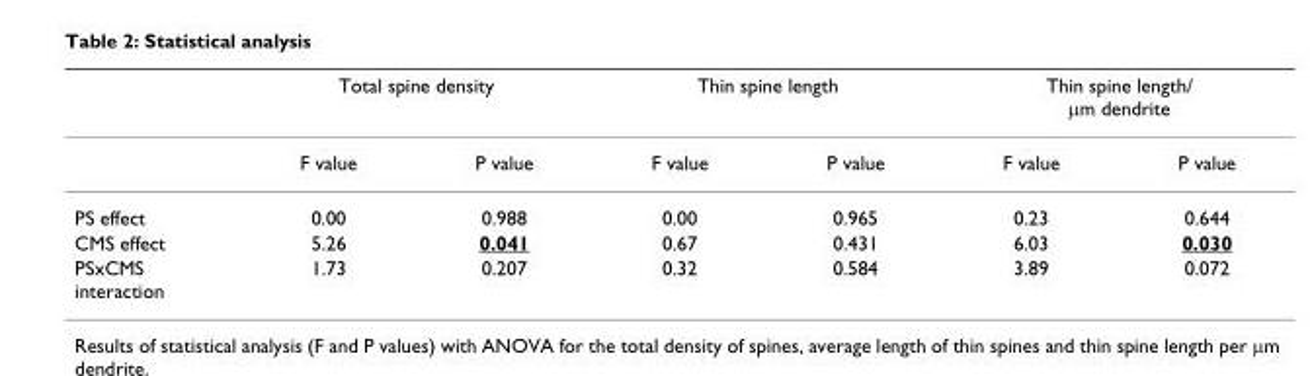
<table><thead><tr><td rowspan="2"></td><td colspan="2">Total spine density</td><td colspan="2">Thin spine length</td><td colspan="2">Thin spine length/ µm dendrite</td></tr><tr><td>F value</td><td>P value</td><td>F value</td><td>P value</td><td>F value</td><td>P value</td></tr></thead><tbody><tr><td>PS effect</td><td>0.00</td><td>0.988</td><td>0.00</td><td>0.965</td><td>0.23</td><td>0.644</td></tr><tr><td>CMS effect</td><td>5.26</td><td>0.041</td><td>0.67</td><td>0.431</td><td>6.03</td><td>0.030</td></tr><tr><td>PSxCMS interaction</td><td>1.73</td><td>0.207</td><td>0.32</td><td>0.584</td><td>3.89</td><td>0.072</td></tr></tbody></table>